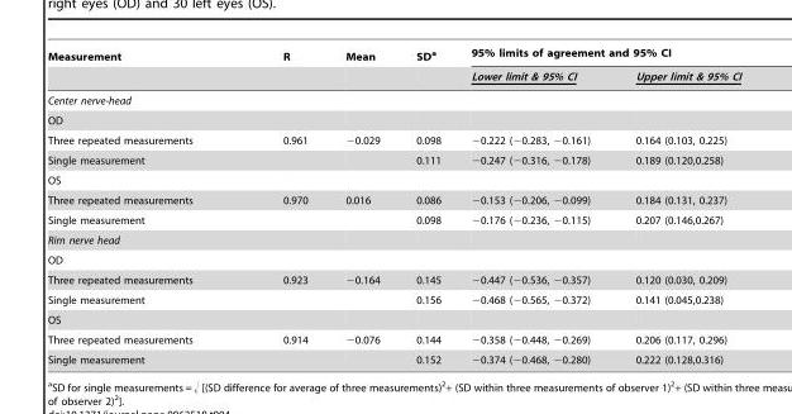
<table><thead><tr><td rowspan="2">Measurement</td><td rowspan="2">R</td><td rowspan="2">Mean</td><td rowspan="2">SD<sup>a</sup></td><td colspan="2">95% limits of agreement and 95% CI</td></tr><tr><td>Lower limit &amp; 95% CI</td><td>Upper limit &amp; 95% CI</td></tr></thead><tbody><tr><td colspan="6">Center nerve-head</td></tr><tr><td colspan="6">OD</td></tr><tr><td>Three repeated measurements</td><td>0.961</td><td>−0.029</td><td>0.098</td><td>−0.222 (−0.283, −0.161)</td><td>0.164 (0.103, 0.225)</td></tr><tr><td>Single measurement</td><td></td><td></td><td>0.111</td><td>−0.247 (−0.316, −0.178)</td><td>0.189 (0.120,0.258)</td></tr><tr><td colspan="6">OS</td></tr><tr><td>Three repeated measurements</td><td>0.970</td><td>0.016</td><td>0.086</td><td>−0.153 (−0.206, −0.099)</td><td>0.184 (0.131, 0.237)</td></tr><tr><td>Single measurement</td><td></td><td></td><td>0.098</td><td>−0.176 (−0.236, −0.115)</td><td>0.207 (0.146,0.267)</td></tr><tr><td colspan="6">Rim nerve head</td></tr><tr><td colspan="6">OD</td></tr><tr><td>Three repeated measurements</td><td>0.923</td><td>−0.164</td><td>0.145</td><td>−0.447 (−0.536, −0.357)</td><td>0.120 (0.030, 0.209)</td></tr><tr><td>Single measurement</td><td></td><td></td><td>0.156</td><td>−0.468 (−0.565, −0.372)</td><td>0.141 (0.045,0.238)</td></tr><tr><td colspan="6">OS</td></tr><tr><td>Three repeated measurements</td><td>0.914</td><td>−0.076</td><td>0.144</td><td>−0.358 (−0.448, −0.269)</td><td>0.206 (0.117, 0.296)</td></tr><tr><td>Single measurement</td><td></td><td></td><td>0.152</td><td>−0.374 (−0.468, −0.280)</td><td>0.222 (0.128,0.316)</td></tr></tbody></table>